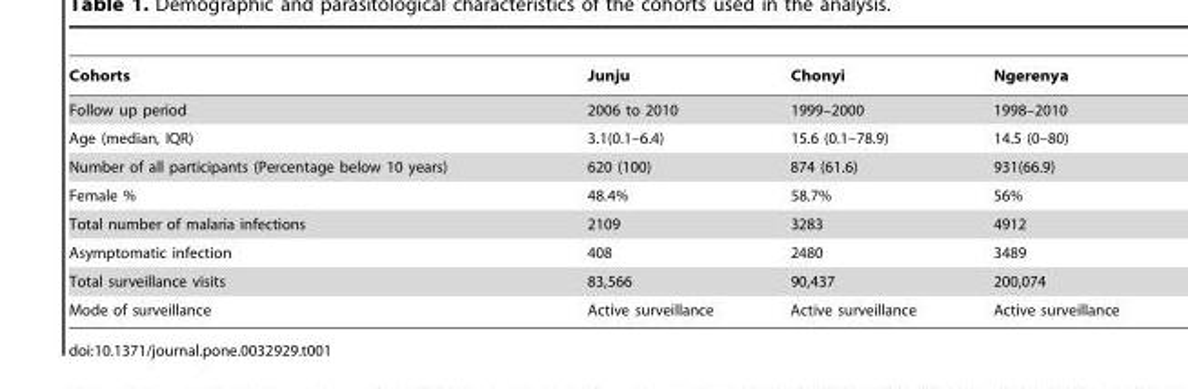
<table><thead><tr><td>Cohorts</td><td>Junju</td><td>Chonyi</td><td>Ngerenya</td></tr></thead><tbody><tr><td>Follow up period</td><td>2006 to 2010</td><td>1999–2000</td><td>1998–2010</td></tr><tr><td>Age (median, IQR)</td><td>3.1(0.1–6.4)</td><td>15.6 (0.1–78.9)</td><td>14.5 (0–80)</td></tr><tr><td>Number of all participants (Percentage below 10 years)</td><td>620 (100)</td><td>874 (61.6)</td><td>931(66.9)</td></tr><tr><td>Female %</td><td>48.4%</td><td>58.7%</td><td>56%</td></tr><tr><td>Total number of malaria infections</td><td>2109</td><td>3283</td><td>4912</td></tr><tr><td>Asymptomatic infection</td><td>408</td><td>2480</td><td>3489</td></tr><tr><td>Total surveillance visits</td><td>83,566</td><td>90,437</td><td>200,074</td></tr><tr><td>Mode of surveillance</td><td>Active surveillance</td><td>Active surveillance</td><td>Active surveillance</td></tr></tbody></table>